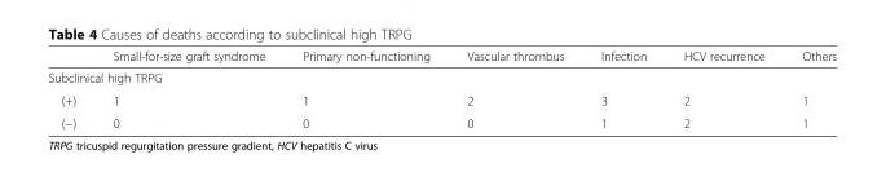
<table><thead><tr><td></td><td>Small-for-size graft syndrome</td><td>Primary non-functioning</td><td>Vascular thrombus</td><td>Infection</td><td>HCV recurrence</td><td>Others</td></tr></thead><tbody><tr><td colspan="7">Subclinical high TRPG</td></tr><tr><td>(+)</td><td>1</td><td>1</td><td>2</td><td>3</td><td>2</td><td>1</td></tr><tr><td>(−)</td><td>0</td><td>0</td><td>0</td><td>1</td><td>2</td><td>1</td></tr></tbody></table>